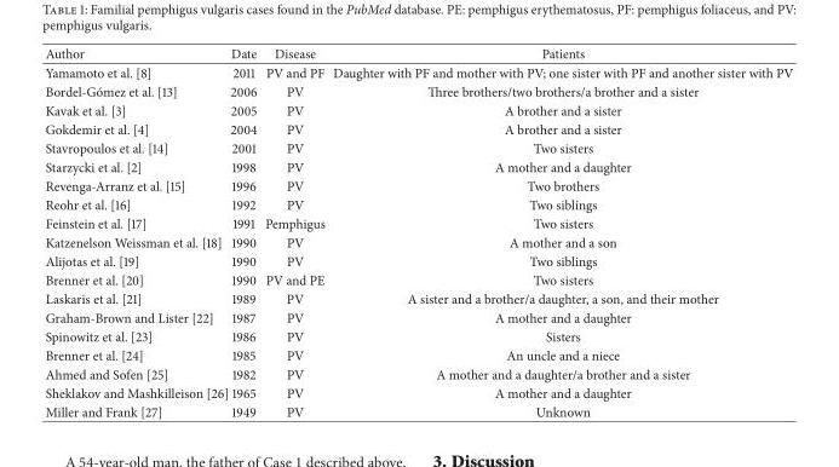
<table><thead><tr><td>Author</td><td>Date</td><td>Disease</td><td>Patients</td></tr></thead><tbody><tr><td>Yamamoto et al. [8]</td><td>2011</td><td>PV and PF</td><td>Daughter with PF and mother with PV; one sister with PF and another sister with PV</td></tr><tr><td>Bordel-G´omez et al. [13]</td><td>2006</td><td>PV</td><td>Three brothers/two brothers/a brother and a sister</td></tr><tr><td>Kavak et al. [3]</td><td>2005</td><td>PV</td><td>A brother and a sister</td></tr><tr><td>Gokdemir et al. [4]</td><td>2004</td><td>PV</td><td>A brother and a sister</td></tr><tr><td>Stavropoulos et al. [14]</td><td>2001</td><td>PV</td><td>Two sisters</td></tr><tr><td>Starzycki et al. [2]</td><td>1998</td><td>PV</td><td>A mother and a daughter</td></tr><tr><td>Revenga-Arranz et al. [15]</td><td>1996</td><td>PV</td><td>Two brothers</td></tr><tr><td>Reohr et al. [16]</td><td>1992</td><td>PV</td><td>Two siblings</td></tr><tr><td>Feinstein et al. [17]</td><td>1991</td><td>Pemphigus</td><td>Two sisters</td></tr><tr><td>Katzenelson Weissman et al. [18]</td><td>1990</td><td>PV</td><td>A mother and a son</td></tr><tr><td>Alijotas et al. [19]</td><td>1990</td><td>PV</td><td>Two siblings</td></tr><tr><td>Brenner et al. [20]</td><td>1990</td><td>PV and PE</td><td>Two sisters</td></tr><tr><td>Laskaris et al. [21]</td><td>1989</td><td>PV</td><td>A sister and a brother/a daughter, a son, and their mother</td></tr><tr><td>Graham-Brown and Lister [22]</td><td>1987</td><td>PV</td><td>A mother and a daughter</td></tr><tr><td>Spinowitz et al. [23]</td><td>1986</td><td>PV</td><td>Sisters</td></tr><tr><td>Brenner et al. [24]</td><td>1985</td><td>PV</td><td>An uncle and a niece</td></tr><tr><td>Ahmed and Sofen [25]</td><td>1982</td><td>PV</td><td>A mother and a daughter/a brother and a sister</td></tr><tr><td>Sheklakov and Mashkilleison [26]</td><td>1965</td><td>PV</td><td>A mother and a daughter</td></tr><tr><td>Miller and Frank [27]</td><td>1949</td><td>PV</td><td>Unknown</td></tr></tbody></table>